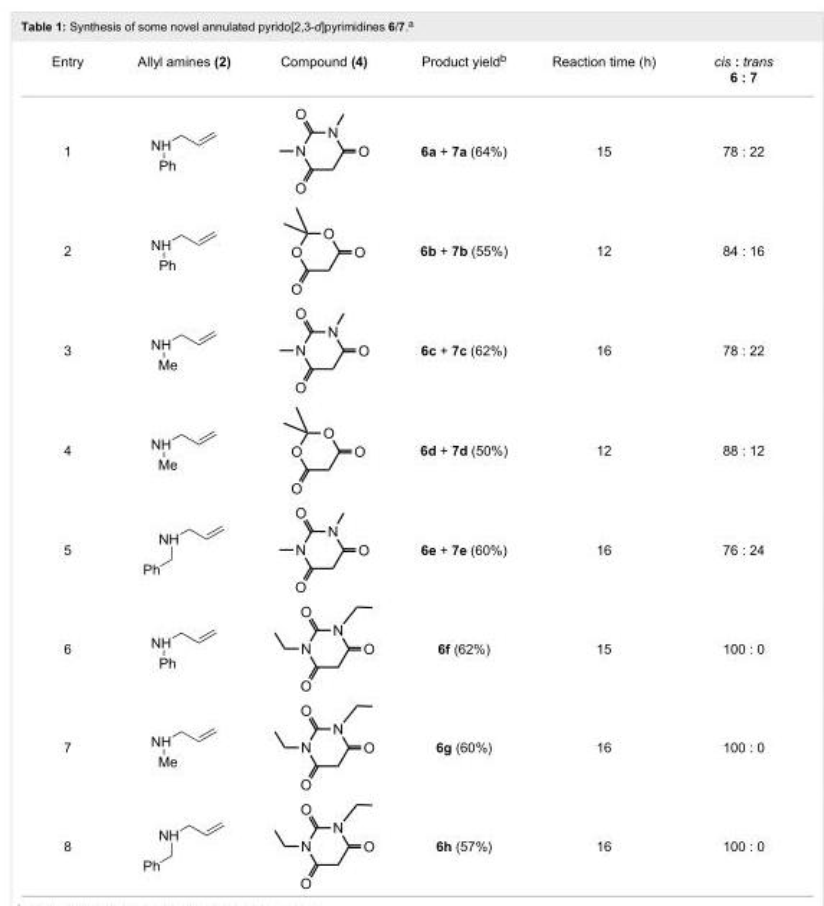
<table><tbody><tr><td>Entry</td><td>Allyl amines (2)</td><td>Compound (4)</td><td>Product yield<sup>b</sup></td><td>Reaction time (h)</td><td>cis : trans 6 : 7</td></tr><tr><td>1</td><td></td><td></td><td>6a + 7a (64%)</td><td>15</td><td>78 : 22</td></tr><tr><td>2</td><td></td><td></td><td>6b + 7b (55%)</td><td>12</td><td>84 : 16</td></tr><tr><td>3</td><td></td><td></td><td>6c + 7c (62%)</td><td>16</td><td>78 : 22</td></tr><tr><td>4</td><td></td><td></td><td>6d + 7d (50%)</td><td>12</td><td>88 : 12</td></tr><tr><td>5</td><td></td><td></td><td>6e + 7e (60%)</td><td>16</td><td>76 : 24</td></tr><tr><td>6</td><td></td><td></td><td>6f (62%)</td><td>15</td><td>100 : 0</td></tr><tr><td>7</td><td></td><td></td><td>6g (60%)</td><td>16</td><td>100 : 0</td></tr><tr><td>8</td><td></td><td></td><td>6h (57%)</td><td>16</td><td>100 : 0</td></tr></tbody></table>